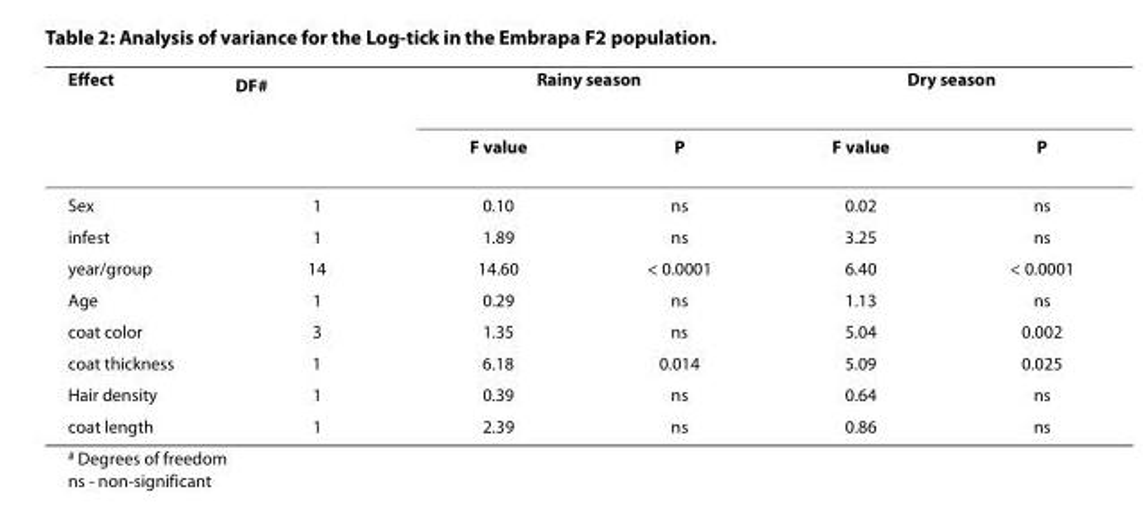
<table><thead><tr><td rowspan="2">Effect</td><td rowspan="2">DF<sup>#</sup></td><td colspan="2">Rainy season</td><td colspan="2">Dry season</td></tr><tr><td>F value</td><td>P</td><td>F value</td><td>P</td></tr></thead><tbody><tr><td>Sex</td><td>1</td><td>0.10</td><td>ns</td><td>0.02</td><td>ns</td></tr><tr><td>infest</td><td>1</td><td>1.89</td><td>ns</td><td>3.25</td><td>ns</td></tr><tr><td>year/group</td><td>14</td><td>14.60</td><td>&lt; 0.0001</td><td>6.40</td><td>&lt; 0.0001</td></tr><tr><td>Age</td><td>1</td><td>0.29</td><td>ns</td><td>1.13</td><td>ns</td></tr><tr><td>coat color</td><td>3</td><td>1.35</td><td>ns</td><td>5.04</td><td>0.002</td></tr><tr><td>coat thickness</td><td>1</td><td>6.18</td><td>0.014</td><td>5.09</td><td>0.025</td></tr><tr><td>Hair density</td><td>1</td><td>0.39</td><td>ns</td><td>0.64</td><td>ns</td></tr><tr><td>coat length</td><td>1</td><td>2.39</td><td>ns</td><td>0.86</td><td>ns</td></tr></tbody></table>